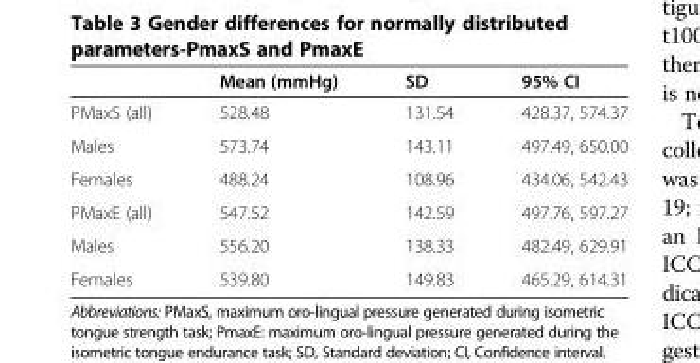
<table><thead><tr><td></td><td>Mean (mmHg)</td><td>SD</td><td>95% CI</td></tr></thead><tbody><tr><td>PMaxS (all)</td><td>528.48</td><td>131.54</td><td>428.37, 574.37</td></tr><tr><td>Males</td><td>573.74</td><td>143.11</td><td>497.49, 650.00</td></tr><tr><td>Females</td><td>488.24</td><td>108.96</td><td>434.06, 542.43</td></tr><tr><td>PMaxE (all)</td><td>547.52</td><td>142.59</td><td>497.76, 597.27</td></tr><tr><td>Males</td><td>556.20</td><td>138.33</td><td>482.49, 629.91</td></tr><tr><td>Females</td><td>539.80</td><td>149.83</td><td>465.29, 614.31</td></tr></tbody></table>